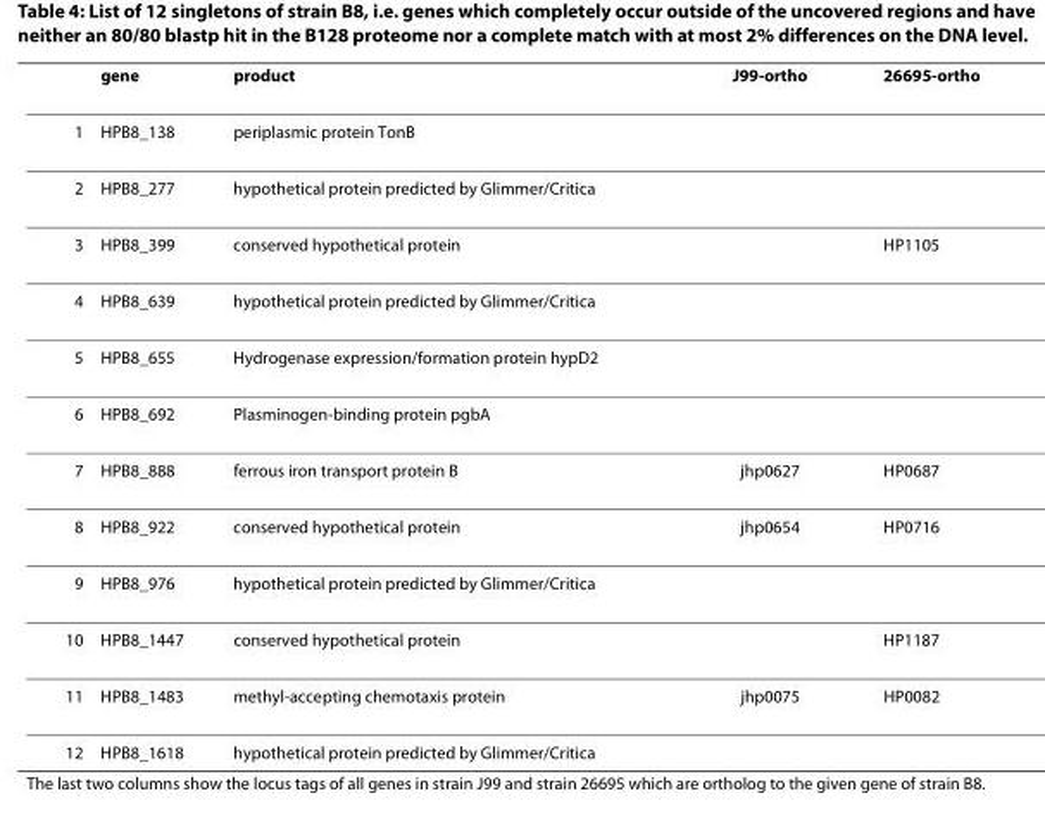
<table><thead><tr><td></td><td>gene</td><td>product</td><td>J99-ortho</td><td>26695-ortho</td></tr></thead><tbody><tr><td>1</td><td>HPB8_138</td><td>periplasmic protein TonB</td><td></td><td></td></tr><tr><td>2</td><td>HPB8_277</td><td>hypothetical protein predicted by Glimmer/Critica</td><td></td><td></td></tr><tr><td>3</td><td>HPB8_399</td><td>conserved hypothetical protein</td><td></td><td>HP1105</td></tr><tr><td>4</td><td>HPB8_639</td><td>hypothetical protein predicted by Glimmer/Critica</td><td></td><td></td></tr><tr><td>5</td><td>HPB8_655</td><td>Hydrogenase expression/formation protein hypD2</td><td></td><td></td></tr><tr><td>6</td><td>HPB8_692</td><td>Plasminogen-binding protein pgbA</td><td></td><td></td></tr><tr><td>7</td><td>HPB8_888</td><td>ferrous iron transport protein B</td><td>jhp0627</td><td>HP0687</td></tr><tr><td>8</td><td>HPB8_922</td><td>conserved hypothetical protein</td><td>jhp0654</td><td>HP0716</td></tr><tr><td>9</td><td>HPB8_976</td><td>hypothetical protein predicted by Glimmer/Critica</td><td></td><td></td></tr><tr><td>10</td><td>HPB8_1447</td><td>conserved hypothetical protein</td><td></td><td>HP1187</td></tr><tr><td>11</td><td>HPB8_1483</td><td>methyl-accepting chemotaxis protein</td><td>jhp0075</td><td>HP0082</td></tr><tr><td>12</td><td>HPB8_1618</td><td>hypothetical protein predicted by Glimmer/Critica</td><td></td><td></td></tr></tbody></table>